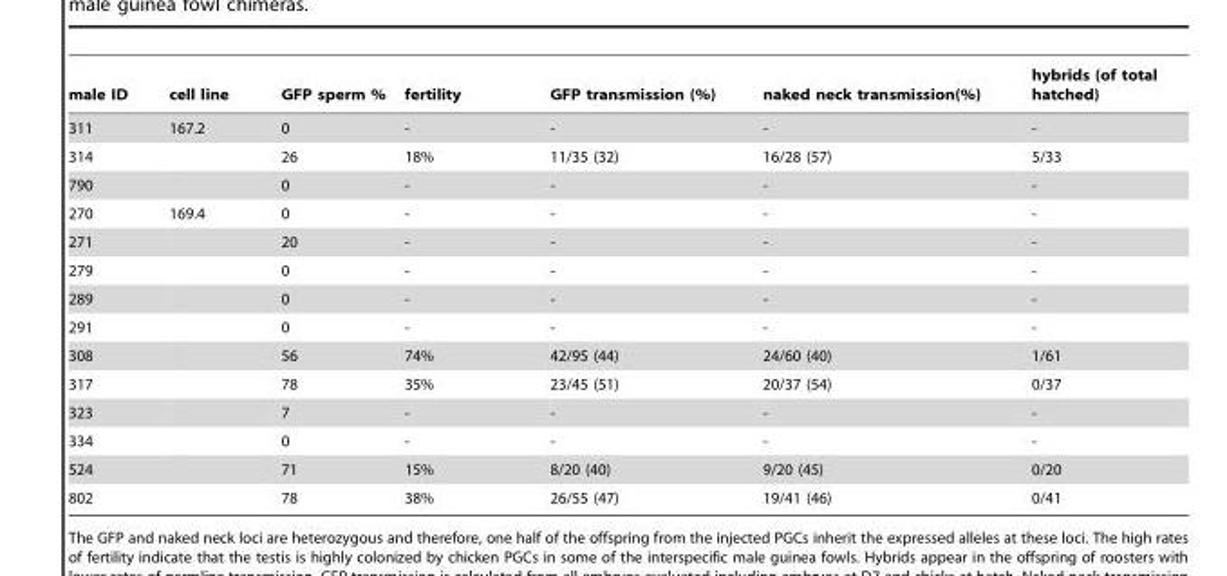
<table><thead><tr><td>male ID</td><td>cell line</td><td>GFP sperm %</td><td>fertility</td><td>GFP transmission (%)</td><td>naked neck transmission(%)</td><td>hybrids (of total hatched)</td></tr></thead><tbody><tr><td>311</td><td>167.2</td><td>0</td><td>-</td><td>-</td><td>-</td><td>-</td></tr><tr><td>314</td><td></td><td>26</td><td>18%</td><td>11/35 (32)</td><td>16/28 (57)</td><td>5/33</td></tr><tr><td>790</td><td></td><td>0</td><td>-</td><td>-</td><td>-</td><td>-</td></tr><tr><td>270</td><td>169.4</td><td>0</td><td>-</td><td>-</td><td>-</td><td>-</td></tr><tr><td>271</td><td></td><td>20</td><td>-</td><td>-</td><td>-</td><td>-</td></tr><tr><td>279</td><td></td><td>0</td><td>-</td><td>-</td><td>-</td><td>-</td></tr><tr><td>289</td><td></td><td>0</td><td>-</td><td>-</td><td>-</td><td>-</td></tr><tr><td>291</td><td></td><td>0</td><td>-</td><td>-</td><td>-</td><td>-</td></tr><tr><td>308</td><td></td><td>56</td><td>74%</td><td>42/95 (44)</td><td>24/60 (40)</td><td>1/61</td></tr><tr><td>317</td><td></td><td>78</td><td>35%</td><td>23/45 (51)</td><td>20/37 (54)</td><td>0/37</td></tr><tr><td>323</td><td></td><td>7</td><td>-</td><td>-</td><td>-</td><td>-</td></tr><tr><td>334</td><td></td><td>0</td><td>-</td><td>-</td><td>-</td><td>-</td></tr><tr><td>524</td><td></td><td>71</td><td>15%</td><td>8/20 (40)</td><td>9/20 (45)</td><td>0/20</td></tr><tr><td>802</td><td></td><td>78</td><td>38%</td><td>26/55 (47)</td><td>19/41 (46)</td><td>0/41</td></tr></tbody></table>